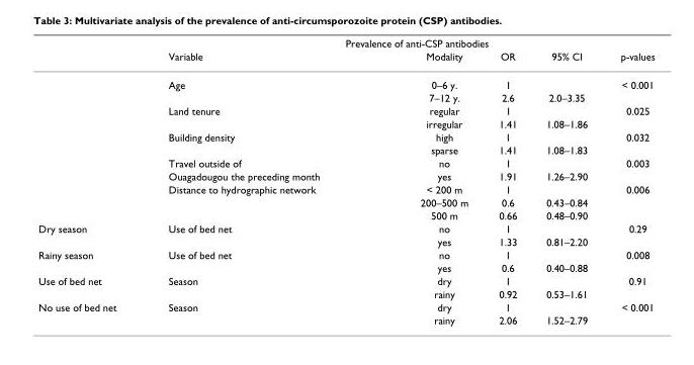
<table><thead><tr><td rowspan="2"></td><td colspan="5">Prevalence of anti-CSP antibodies</td></tr><tr><td>Variable</td><td>Modality</td><td>OR</td><td>95% CI</td><td>p-values</td></tr></thead><tbody><tr><td></td><td>Age</td><td>0–6 y.</td><td>1</td><td></td><td>&lt; 0.001</td></tr><tr><td></td><td></td><td>7–12 y.</td><td>2.6</td><td>2.0–3.35</td><td></td></tr><tr><td></td><td>Land tenure</td><td>regular</td><td>1</td><td></td><td>0.025</td></tr><tr><td></td><td></td><td>irregular</td><td>1.41</td><td>1.08–1.86</td><td></td></tr><tr><td></td><td>Building density</td><td>high</td><td>1</td><td></td><td>0.032</td></tr><tr><td></td><td></td><td>sparse</td><td>1.41</td><td>1.08–1.83</td><td></td></tr><tr><td></td><td>Travel outside of</td><td>no</td><td>1</td><td></td><td>0.003</td></tr><tr><td></td><td>Ouagadougou the preceding month</td><td>yes</td><td>1.91</td><td>1.26–2.90</td><td></td></tr><tr><td></td><td>Distance to hydrographic network</td><td>&lt; 200 m</td><td>1</td><td></td><td>0.006</td></tr><tr><td></td><td></td><td>200–500 m</td><td>0.6</td><td>0.43–0.84</td><td></td></tr><tr><td></td><td></td><td>500 m</td><td>0.66</td><td>0.48–0.90</td><td></td></tr><tr><td rowspan="2">Dry season</td><td>Use of bed net</td><td>no</td><td>1</td><td></td><td>0.29</td></tr><tr><td></td><td>yes</td><td>1.33</td><td>0.81–2.20</td><td></td></tr><tr><td rowspan="2">Rainy season</td><td>Use of bed net</td><td>no</td><td>1</td><td></td><td>0.008</td></tr><tr><td></td><td>yes</td><td>0.6</td><td>0.40–0.88</td><td></td></tr><tr><td rowspan="2">Use of bed net</td><td>Season</td><td>dry</td><td>1</td><td></td><td>0.91</td></tr><tr><td></td><td>rainy</td><td>0.92</td><td>0.53–1.61</td><td></td></tr><tr><td rowspan="2">No use of bed net</td><td>Season</td><td>dry</td><td>1</td><td></td><td>&lt; 0.001</td></tr><tr><td></td><td>rainy</td><td>2.06</td><td>1.52–2.79</td><td></td></tr></tbody></table>